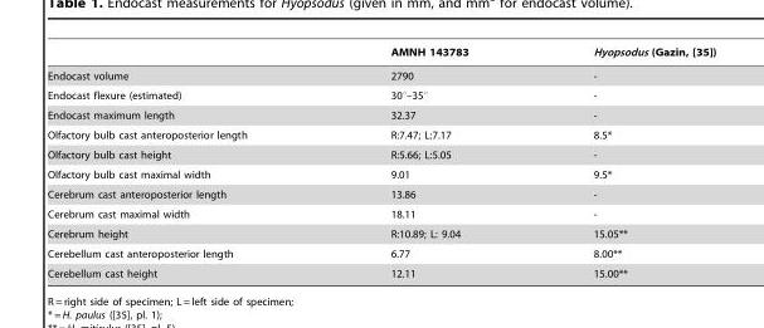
<table><thead><tr><td></td><td>AMNH 143783</td><td>Hyopsodus (Gazin, [35])</td></tr></thead><tbody><tr><td>Endocast volume</td><td>2790</td><td>-</td></tr><tr><td>Endocast flexure (estimated)</td><td>30°–35°</td><td>-</td></tr><tr><td>Endocast maximum length</td><td>32.37</td><td>-</td></tr><tr><td>Olfactory bulb cast anteroposterior length</td><td>R:7.47; L:7.17</td><td>8.5*</td></tr><tr><td>Olfactory bulb cast height</td><td>R:5.66; L:5.05</td><td>-</td></tr><tr><td>Olfactory bulb cast maximal width</td><td>9.01</td><td>9.5*</td></tr><tr><td>Cerebrum cast anteroposterior length</td><td>13.86</td><td>-</td></tr><tr><td>Cerebrum cast maximal width</td><td>18.11</td><td>-</td></tr><tr><td>Cerebrum height</td><td>R:10.89; L: 9.04</td><td>15.05**</td></tr><tr><td>Cerebellum cast anteroposterior length</td><td>6.77</td><td>8.00**</td></tr><tr><td>Cerebellum cast height</td><td>12.11</td><td>15.00**</td></tr></tbody></table>